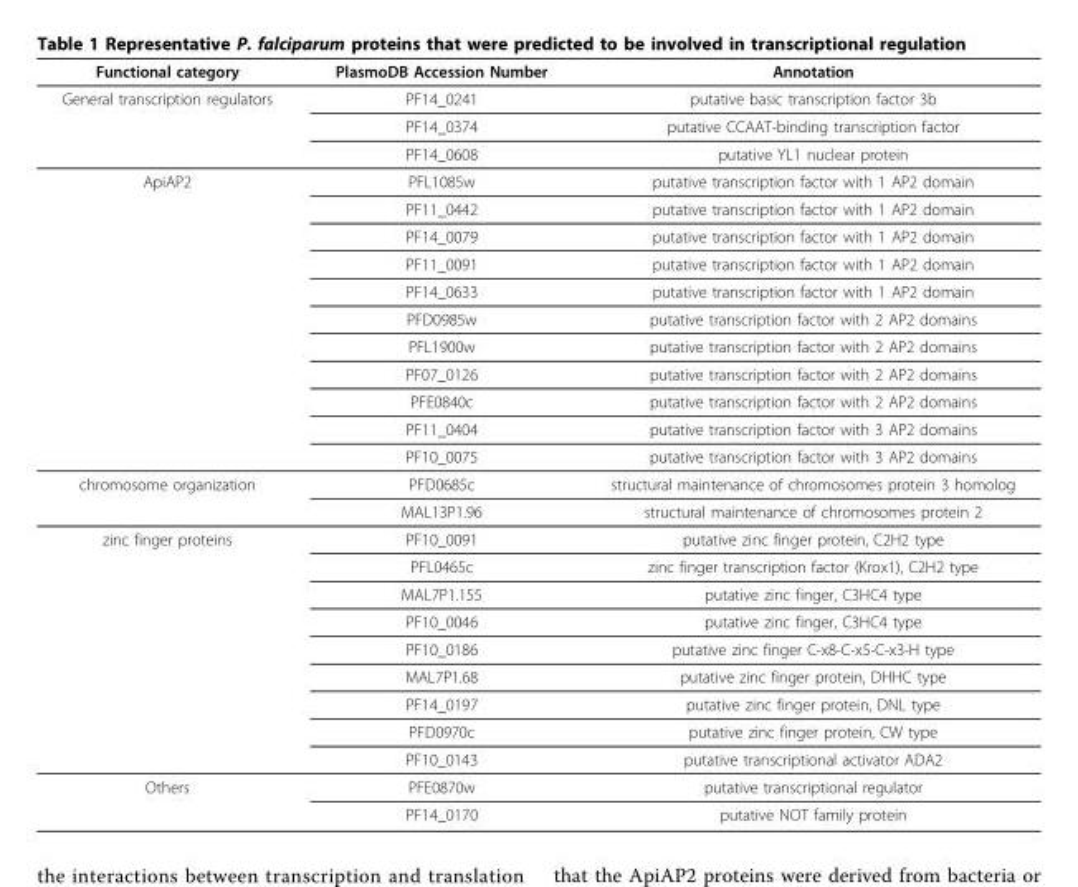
<table><thead><tr><td>Functional category</td><td>PlasmoDB Accession Number</td><td>Annotation</td></tr></thead><tbody><tr><td rowspan="3">General transcription regulators</td><td>PF14_0241</td><td>putative basic transcription factor 3b</td></tr><tr><td>PF14_0374</td><td>putative CCAAT-binding transcription factor</td></tr><tr><td>PF14_0608</td><td>putative YL1 nuclear protein</td></tr><tr><td rowspan="11">ApiAP2</td><td>PFL1085w</td><td>putative transcription factor with 1 AP2 domain</td></tr><tr><td>PF11_0442</td><td>putative transcription factor with 1 AP2 domain</td></tr><tr><td>PF14_0079</td><td>putative transcription factor with 1 AP2 domain</td></tr><tr><td>PF11_0091</td><td>putative transcription factor with 1 AP2 domain</td></tr><tr><td>PF14_0633</td><td>putative transcription factor with 1 AP2 domain</td></tr><tr><td>PFD0985w</td><td>putative transcription factor with 2 AP2 domains</td></tr><tr><td>PFL1900w</td><td>putative transcription factor with 2 AP2 domains</td></tr><tr><td>PF07_0126</td><td>putative transcription factor with 2 AP2 domains</td></tr><tr><td>PFE0840c</td><td>putative transcription factor with 2 AP2 domains</td></tr><tr><td>PF11_0404</td><td>putative transcription factor with 3 AP2 domains</td></tr><tr><td>PF10_0075</td><td>putative transcription factor with 3 AP2 domains</td></tr><tr><td rowspan="2">chromosome organization</td><td>PFD0685c</td><td>structural maintenance of chromosomes protein 3 homolog</td></tr><tr><td>MAL13P1.96</td><td>structural maintenance of chromosomes protein 2</td></tr><tr><td rowspan="9">zinc finger proteins</td><td>PF10_0091</td><td>putative zinc finger protein, C2H2 type</td></tr><tr><td>PFL0465c</td><td>zinc finger transcription factor (Krox1), C2H2 type</td></tr><tr><td>MAL7P1.155</td><td>putative zinc finger, C3HC4 type</td></tr><tr><td>PF10_0046</td><td>putative zinc finger, C3HC4 type</td></tr><tr><td>PF10_0186</td><td>putative zinc finger C-x8-C-x5-C-x3-H type</td></tr><tr><td>MAL7P1.68</td><td>putative zinc finger protein, DHHC type</td></tr><tr><td>PF14_0197</td><td>putative zinc finger protein, DNL type</td></tr><tr><td>PFD0970c</td><td>putative zinc finger protein, CW type</td></tr><tr><td>PF10_0143</td><td>putative transcriptional activator ADA2</td></tr><tr><td rowspan="2">Others</td><td>PFE0870w</td><td>putative transcriptional regulator</td></tr><tr><td>PF14_0170</td><td>putative NOT family protein</td></tr></tbody></table>